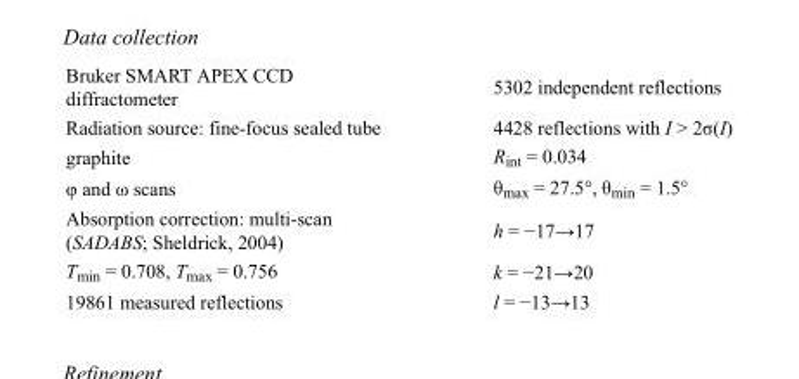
<table><tbody><tr><td>Bruker SMART APEX CCD diffractometer</td><td>5302 independent reflections</td></tr><tr><td>Radiation source: fine-focus sealed tube</td><td>4428 reflections with I &gt; 2σ(I)</td></tr><tr><td>graphite</td><td>R<sub>int</sub> = 0.034</td></tr><tr><td>φ and ω scans</td><td>θ<sub>max</sub> = 27.5°, θ<sub>min</sub> = 1.5°</td></tr><tr><td>Absorption correction: multi-scan (SADABS; Sheldrick, 2004)</td><td>h = −17→17</td></tr><tr><td>T<sub>min</sub> = 0.708, T<sub>max</sub> = 0.756</td><td>k = −21→20</td></tr><tr><td>19861 measured reflections</td><td>l = −13→13</td></tr></tbody></table>